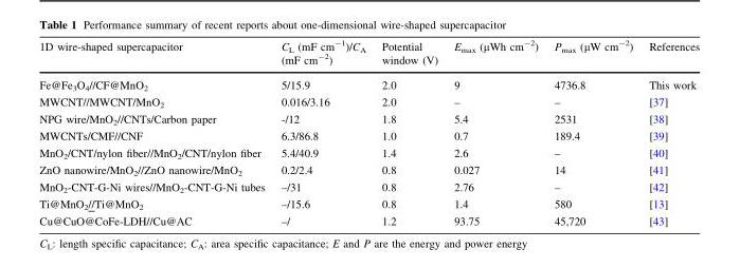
<table><thead><tr><td>1D wire-shaped supercapacitor</td><td>C<sub>L</sub> (mF cm<sup>-1</sup>)/C<sub>A</sub> (mF cm<sup>-2</sup>)</td><td>Potential window (V)</td><td>E<sub>max</sub> (µWh cm<sup>-2</sup>)</td><td>P<sub>max</sub> (µW cm<sup>-2</sup>)</td><td>References</td></tr></thead><tbody><tr><td>Fe@Fe<sub>3</sub>O<sub>4</sub>//CF@MnO<sub>2</sub></td><td>5/15.9</td><td>2.0</td><td>9</td><td>4736.8</td><td>This work</td></tr><tr><td>MWCNT//MWCNT/MnO<sub>2</sub></td><td>0.016/3.16</td><td>2.0</td><td>–</td><td>–</td><td>[37]</td></tr><tr><td>NPG wire/MnO<sub>2</sub>//CNTs/Carbon paper</td><td>-/12</td><td>1.8</td><td>5.4</td><td>2531</td><td>[38]</td></tr><tr><td>MWCNTs/CMF//CNF</td><td>6.3/86.8</td><td>1.0</td><td>0.7</td><td>189.4</td><td>[39]</td></tr><tr><td>MnO<sub>2</sub>/CNT/nylon fiber//MnO<sub>2</sub>/CNT/nylon fiber</td><td>5.4/40.9</td><td>1.4</td><td>2.6</td><td>–</td><td>[40]</td></tr><tr><td>ZnO nanowire/MnO<sub>2</sub>//ZnO nanowire/MnO<sub>2</sub></td><td>0.2/2.4</td><td>0.8</td><td>0.027</td><td>14</td><td>[41]</td></tr><tr><td>MnO<sub>2</sub>-CNT-G-Ni wires//MnO<sub>2</sub>-CNT-G-Ni tubes</td><td>–/31</td><td>0.8</td><td>2.76</td><td>–</td><td>[42]</td></tr><tr><td>Ti@MnO<sub>2</sub>//Ti@MnO<sub>2</sub></td><td>–/15.6</td><td>0.8</td><td>1.4</td><td>580</td><td>[13]</td></tr><tr><td>Cu@CuO@CoFe-LDH//Cu@AC</td><td>–/</td><td>1.2</td><td>93.75</td><td>45,720</td><td>[43]</td></tr></tbody></table>